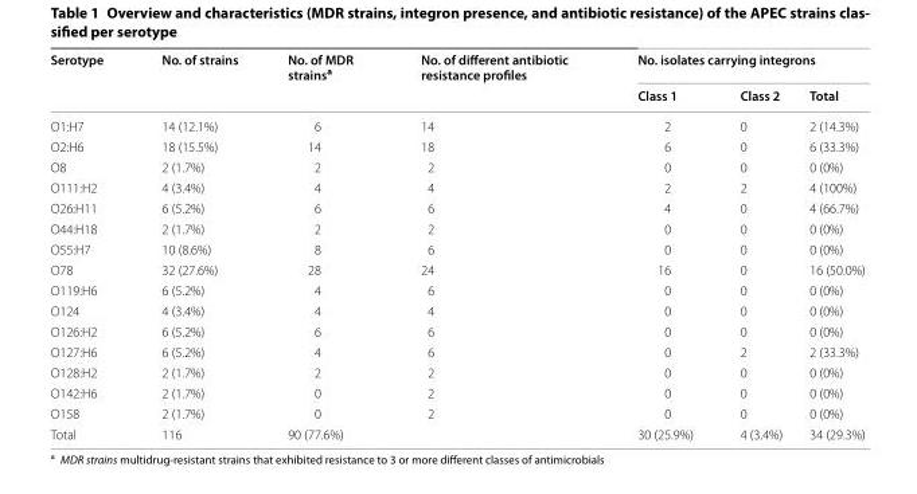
<table><thead><tr><td rowspan="2">Serotype</td><td rowspan="2">No. of strains</td><td rowspan="2">No. of MDR strains<sup>a</sup></td><td rowspan="2">No. of different antibiotic resistance profiles</td><td colspan="3">No. isolates carrying integrons</td></tr><tr><td>Class 1</td><td>Class 2</td><td>Total</td></tr></thead><tbody><tr><td>O1:H7</td><td>14 (12.1%)</td><td>6</td><td>14</td><td>2</td><td>0</td><td>2 (14.3%)</td></tr><tr><td>O2:H6</td><td>18 (15.5%)</td><td>14</td><td>18</td><td>6</td><td>0</td><td>6 (33.3%)</td></tr><tr><td>O8</td><td>2 (1.7%)</td><td>2</td><td>2</td><td>0</td><td>0</td><td>0 (0%)</td></tr><tr><td>O111:H2</td><td>4 (3.4%)</td><td>4</td><td>4</td><td>2</td><td>2</td><td>4 (100%)</td></tr><tr><td>O26:H11</td><td>6 (5.2%)</td><td>6</td><td>6</td><td>4</td><td>0</td><td>4 (66.7%)</td></tr><tr><td>O44:H18</td><td>2 (1.7%)</td><td>2</td><td>2</td><td>0</td><td>0</td><td>0 (0%)</td></tr><tr><td>O55:H7</td><td>10 (8.6%)</td><td>8</td><td>6</td><td>0</td><td>0</td><td>0 (0%)</td></tr><tr><td>O78</td><td>32 (27.6%)</td><td>28</td><td>24</td><td>16</td><td>0</td><td>16 (50.0%)</td></tr><tr><td>O119:H6</td><td>6 (5.2%)</td><td>4</td><td>6</td><td>0</td><td>0</td><td>0 (0%)</td></tr><tr><td>O124</td><td>4 (3.4%)</td><td>4</td><td>4</td><td>0</td><td>0</td><td>0 (0%)</td></tr><tr><td>O126:H2</td><td>6 (5.2%)</td><td>6</td><td>6</td><td>0</td><td>0</td><td>0 (0%)</td></tr><tr><td>O127:H6</td><td>6 (5.2%)</td><td>4</td><td>6</td><td>0</td><td>2</td><td>2 (33.3%)</td></tr><tr><td>O128:H2</td><td>2 (1.7%)</td><td>2</td><td>2</td><td>0</td><td>0</td><td>0 (0%)</td></tr><tr><td>O142:H6</td><td>2 (1.7%)</td><td>0</td><td>2</td><td>0</td><td>0</td><td>0 (0%)</td></tr><tr><td>O158</td><td>2 (1.7%)</td><td>0</td><td>2</td><td>0</td><td>0</td><td>0 (0%)</td></tr><tr><td>Total</td><td>116</td><td>90 (77.6%)</td><td></td><td>30 (25.9%)</td><td>4 (3.4%)</td><td>34 (29.3%)</td></tr></tbody></table>